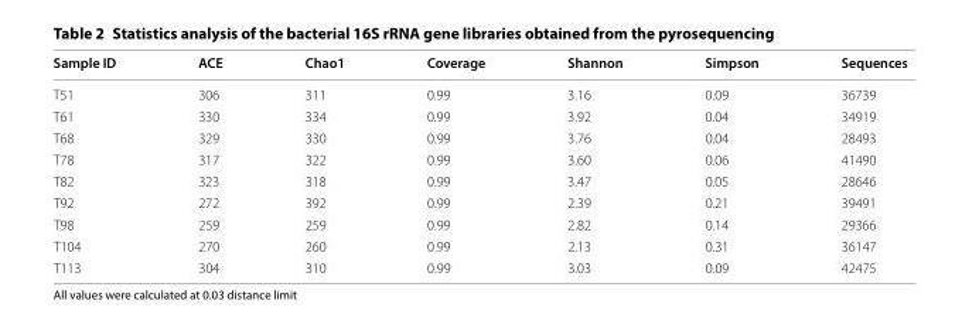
<table><thead><tr><td>Sample ID</td><td>ACE</td><td>Chao1</td><td>Coverage</td><td>Shannon</td><td>Simpson</td><td>Sequences</td></tr></thead><tbody><tr><td>T51</td><td>306</td><td>311</td><td>0.99</td><td>3.16</td><td>0.09</td><td>36739</td></tr><tr><td>T61</td><td>330</td><td>334</td><td>0.99</td><td>3.92</td><td>0.04</td><td>34919</td></tr><tr><td>T68</td><td>329</td><td>330</td><td>0.99</td><td>3.76</td><td>0.04</td><td>28493</td></tr><tr><td>T78</td><td>317</td><td>322</td><td>0.99</td><td>3.60</td><td>0.06</td><td>41490</td></tr><tr><td>T82</td><td>323</td><td>318</td><td>0.99</td><td>3.47</td><td>0.05</td><td>28646</td></tr><tr><td>T92</td><td>272</td><td>392</td><td>0.99</td><td>2.39</td><td>0.21</td><td>39491</td></tr><tr><td>T98</td><td>259</td><td>259</td><td>0.99</td><td>2.82</td><td>0.14</td><td>29366</td></tr><tr><td>T104</td><td>270</td><td>260</td><td>0.99</td><td>2.13</td><td>0.31</td><td>36147</td></tr><tr><td>T113</td><td>304</td><td>310</td><td>0.99</td><td>3.03</td><td>0.09</td><td>42475</td></tr></tbody></table>